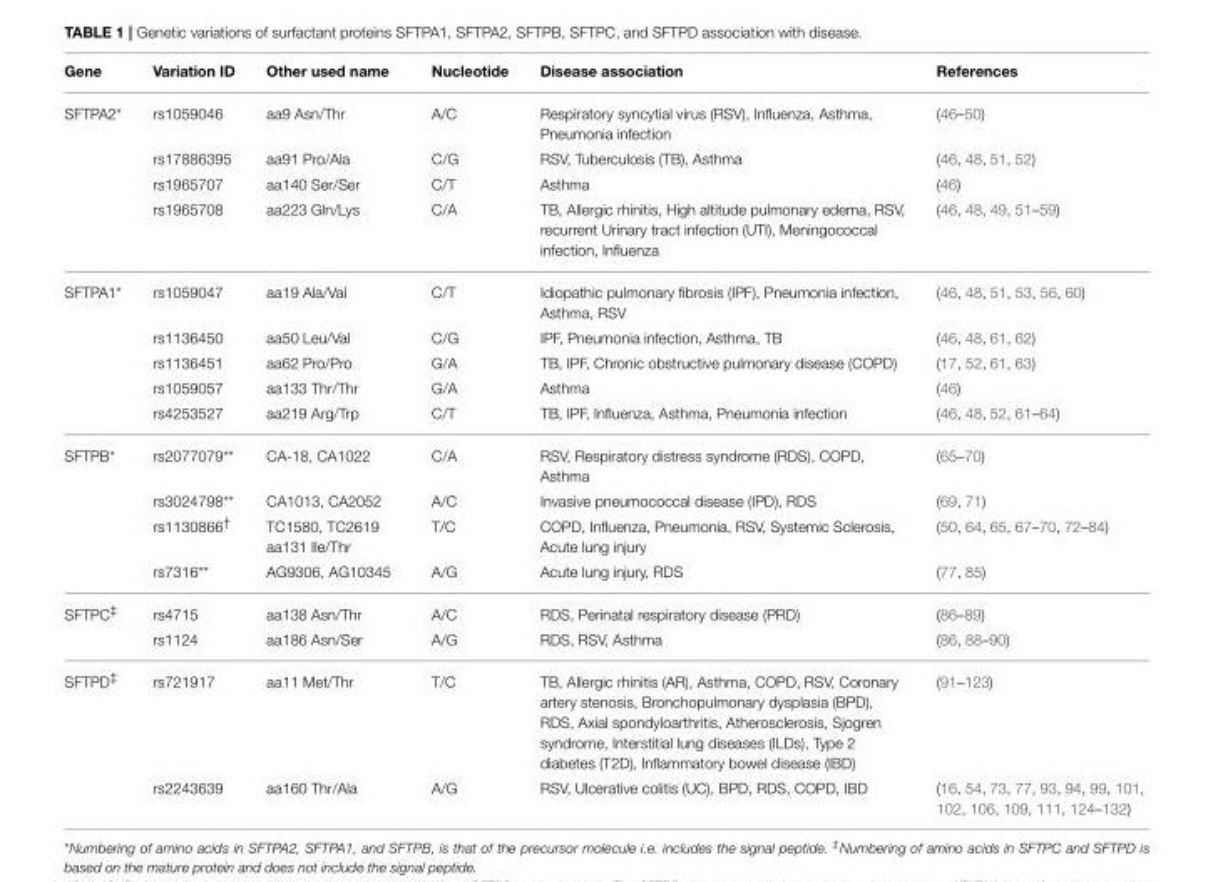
<table><thead><tr><td>Gene</td><td>Variation ID</td><td>Other used name</td><td>Nucleotide</td><td>Disease association</td><td>References</td></tr></thead><tbody><tr><td rowspan="4">SFTPA2*</td><td>rs1059046</td><td>aa9 Asn/Thr</td><td>A/C</td><td>Respiratory syncytial virus (RSV), Influenza, Asthma, Pneumonia infection</td><td>(46–50)</td></tr><tr><td>rs17886395</td><td>aa91 Pro/Ala</td><td>C/G</td><td>RSV, Tuberculosis (TB), Asthma</td><td>(46, 48, 51, 52)</td></tr><tr><td>rs1965707</td><td>aa140 Ser/Ser</td><td>C/T</td><td>Asthma</td><td>(46)</td></tr><tr><td>rs1965708</td><td>aa223 Gln/Lys</td><td>C/A</td><td>TB, Allergic rhinitis, High altitude pulmonary edema, RSV, recurrent Urinary tract infection (UTI), Meningococcal infection, Influenza</td><td>(46, 48, 49, 51–59)</td></tr><tr><td rowspan="5">SFTPA1*</td><td>rs1059047</td><td>aa19 Ala/Val</td><td>C/T</td><td>Idiopathic pulmonary fibrosis (IPF), Pneumonia infection, Asthma, RSV</td><td>(46, 48, 51, 53, 56, 60)</td></tr><tr><td>rs1136450</td><td>aa50 Leu/Val</td><td>C/G</td><td>IPF, Pneumonia infection, Asthma, TB</td><td>(46, 48, 61, 62)</td></tr><tr><td>rs1136451</td><td>aa62 Pro/Pro</td><td>G/A</td><td>TB, IPF, Chronic obstructive pulmonary disease (COPD)</td><td>(17, 52, 61, 63)</td></tr><tr><td>rs1059057</td><td>aa133 Thr/Thr</td><td>G/A</td><td>Asthma</td><td>(46)</td></tr><tr><td>rs4253527</td><td>aa219 Arg/Trp</td><td>C/T</td><td>TB, IPF, Influenza, Asthma, Pneumonia infection</td><td>(46, 48, 52, 61–64)</td></tr><tr><td rowspan="4">SFTPB*</td><td>rs2077079**</td><td>CA-18, CA1022</td><td>C/A</td><td>RSV, Respiratory distress syndrome (RDS), COPD, Asthma</td><td>(65–70)</td></tr><tr><td>rs3024798**</td><td>CA1013, CA2052</td><td>A/C</td><td>Invasive pneumococcal disease (IPD), RDS</td><td>(69, 71)</td></tr><tr><td>rs1130866<sup>†</sup></td><td>TC1580, TC2619 aa131 Ile/Thr</td><td>T/C</td><td>COPD, Influenza, Pneumonia, RSV, Systemic Sclerosis, Acute lung injury</td><td>(50, 64, 65, 67–70, 72–84)</td></tr><tr><td>rs7316**</td><td>AG9306, AG10345</td><td>A/G</td><td>Acute lung injury, RDS</td><td>(77, 85)</td></tr><tr><td rowspan="2">SFTPC<sup>‡</sup></td><td>rs4715</td><td>aa138 Asn/Thr</td><td>A/C</td><td>RDS, Perinatal respiratory disease (PRD)</td><td>(86–89)</td></tr><tr><td>rs1124</td><td>aa186 Asn/Ser</td><td>A/G</td><td>RDS, RSV, Asthma</td><td>(86, 88–90)</td></tr><tr><td rowspan="2">SFTPD<sup>‡</sup></td><td>rs721917</td><td>aa11 Met/Thr</td><td>T/C</td><td>TB, Allergic rhinitis (AR), Asthma, COPD, RSV, Coronary artery stenosis, Bronchopulmonary dysplasia (BPD), RDS, Axial spondyloarthritis, Atherosclerosis, Sjogren syndrome, Interstitial lung diseases (ILDs), Type 2 diabetes (T2D), Inflammatory bowel disease (IBD)</td><td>(91–123)</td></tr><tr><td>rs2243639</td><td>aa160 Thr/Ala</td><td>A/G</td><td>RSV, Ulcerative colitis (UC), BPD, RDS, COPD, IBD</td><td>(16, 54, 73, 77, 93, 94, 99, 101, 102, 106, 109, 111, 124–132)</td></tr></tbody></table>